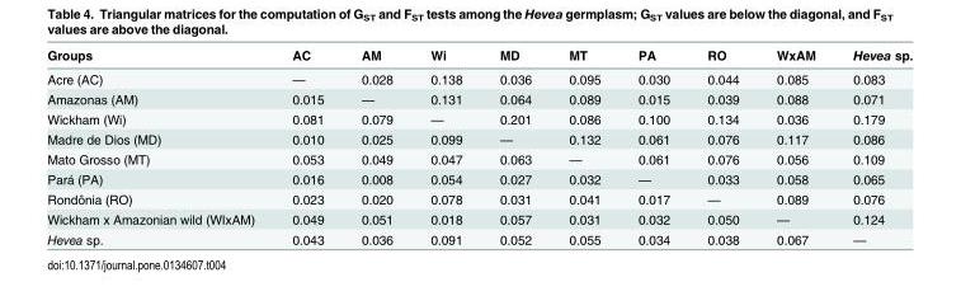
<table><thead><tr><td>Groups</td><td>AC</td><td>AM</td><td>Wi</td><td>MD</td><td>MT</td><td>PA</td><td>RO</td><td>WxAM</td><td>Hevea sp.</td></tr></thead><tbody><tr><td>Acre (AC)</td><td>—</td><td>0.028</td><td>0.138</td><td>0.036</td><td>0.095</td><td>0.030</td><td>0.044</td><td>0.085</td><td>0.083</td></tr><tr><td>Amazonas (AM)</td><td>0.015</td><td>—</td><td>0.131</td><td>0.064</td><td>0.089</td><td>0.015</td><td>0.039</td><td>0.088</td><td>0.071</td></tr><tr><td>Wickham (Wi)</td><td>0.081</td><td>0.079</td><td>—</td><td>0.201</td><td>0.086</td><td>0.100</td><td>0.134</td><td>0.036</td><td>0.179</td></tr><tr><td>Madre de Dios (MD)</td><td>0.010</td><td>0.025</td><td>0.099</td><td>—</td><td>0.132</td><td>0.061</td><td>0.076</td><td>0.117</td><td>0.086</td></tr><tr><td>Mato Grosso (MT)</td><td>0.053</td><td>0.049</td><td>0.047</td><td>0.063</td><td>—</td><td>0.061</td><td>0.076</td><td>0.056</td><td>0.109</td></tr><tr><td>Pará (PA)</td><td>0.016</td><td>0.008</td><td>0.054</td><td>0.027</td><td>0.032</td><td>—</td><td>0.033</td><td>0.058</td><td>0.065</td></tr><tr><td>Rondônia (RO)</td><td>0.023</td><td>0.020</td><td>0.078</td><td>0.031</td><td>0.041</td><td>0.017</td><td>—</td><td>0.089</td><td>0.076</td></tr><tr><td>Wickham x Amazonian wild (WIxAM)</td><td>0.049</td><td>0.051</td><td>0.018</td><td>0.057</td><td>0.031</td><td>0.032</td><td>0.050</td><td>—</td><td>0.124</td></tr><tr><td>Hevea sp.</td><td>0.043</td><td>0.036</td><td>0.091</td><td>0.052</td><td>0.055</td><td>0.034</td><td>0.038</td><td>0.067</td><td>—</td></tr></tbody></table>